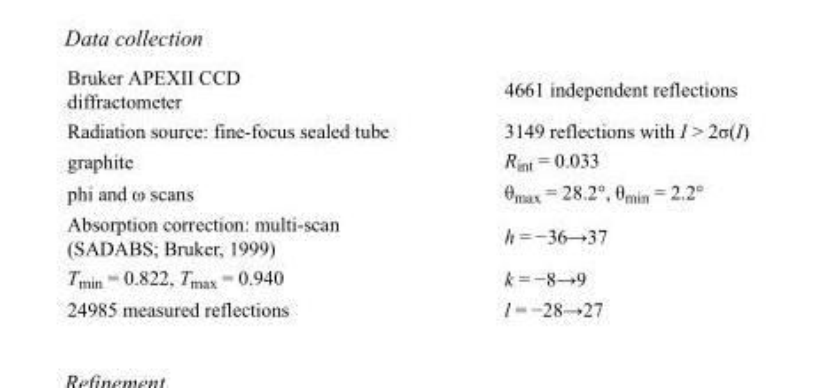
<table><tbody><tr><td>Bruker APEXII CCD diffractometer</td><td>4661 independent reflections</td></tr><tr><td>Radiation source: fine-focus sealed tube</td><td>3149 reflections with I &gt; 2σ(I)</td></tr><tr><td>graphite</td><td>R<sub>int</sub> = 0.033</td></tr><tr><td>phi and ω scans</td><td>θ<sub>max</sub> = 28.2°, θ<sub>min</sub> = 2.2°</td></tr><tr><td>Absorption correction: multi-scan (SADABS; Bruker, 1999)</td><td>h = −36→37</td></tr><tr><td>T<sub>min</sub> = 0.822, T<sub>max</sub> = 0.940</td><td>k = −8→9</td></tr><tr><td>24985 measured reflections</td><td>l = −28→27</td></tr></tbody></table>